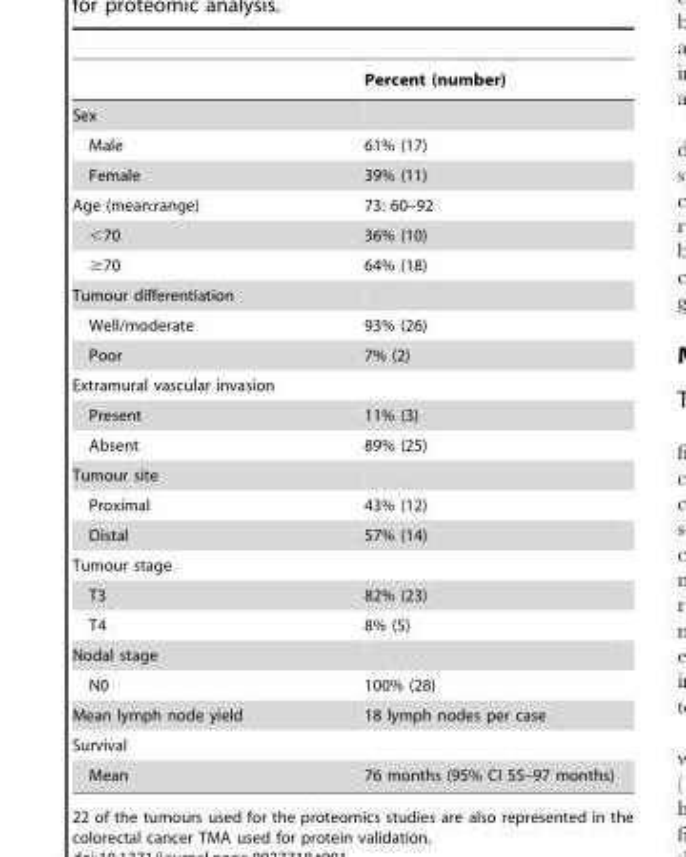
<table><thead><tr><td></td><td>Percent (number)</td></tr></thead><tbody><tr><td colspan="2">Sex</td></tr><tr><td>Male</td><td>61% (17)</td></tr><tr><td>Female</td><td>39% (11)</td></tr><tr><td>Age (mean:range)</td><td>73: 60–92</td></tr><tr><td>&lt;70</td><td>36% (10)</td></tr><tr><td>≥70</td><td>64% (18)</td></tr><tr><td colspan="2">Tumour differentiation</td></tr><tr><td>Well/moderate</td><td>93% (26)</td></tr><tr><td>Poor</td><td>7% (2)</td></tr><tr><td colspan="2">Extramural vascular invasion</td></tr><tr><td>Present</td><td>11% (3)</td></tr><tr><td>Absent</td><td>89% (25)</td></tr><tr><td colspan="2">Tumour site</td></tr><tr><td>Proximal</td><td>43% (12)</td></tr><tr><td>Distal</td><td>57% (14)</td></tr><tr><td colspan="2">Tumour stage</td></tr><tr><td>T3</td><td>82% (23)</td></tr><tr><td>T4</td><td>8% (5)</td></tr><tr><td colspan="2">Nodal stage</td></tr><tr><td>N0</td><td>100% (28)</td></tr><tr><td>Mean lymph node yield</td><td>18 lymph nodes per case</td></tr><tr><td colspan="2">Survival</td></tr><tr><td>Mean</td><td>76 months (95% CI 55–97 months)</td></tr></tbody></table>